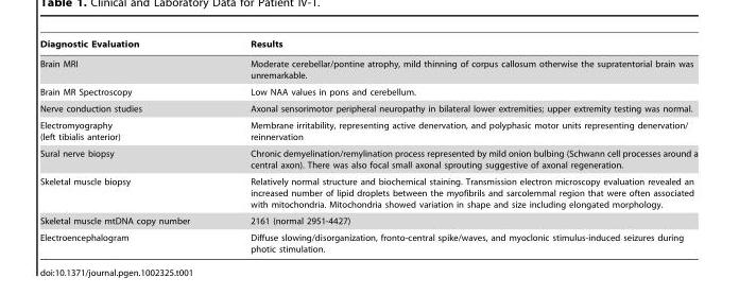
<table><thead><tr><td>Diagnostic Evaluation</td><td>Results</td></tr></thead><tbody><tr><td>Brain MRI</td><td>Moderate cerebellar/pontine atrophy, mild thinning of corpus callosum otherwise the supratentorial brain was unremarkable.</td></tr><tr><td>Brain MR Spectroscopy</td><td>Low NAA values in pons and cerebellum.</td></tr><tr><td>Nerve conduction studies</td><td>Axonal sensorimotor peripheral neuropathy in bilateral lower extremities; upper extremity testing was normal.</td></tr><tr><td>Electromyography (left tibialis anterior)</td><td>Membrane irritability, representing active denervation, and polyphasic motor units representing denervation/ reinnervation</td></tr><tr><td>Sural nerve biopsy</td><td>Chronic demyelination/remylination process represented by mild onion bulbing (Schwann cell processes around a central axon). There was also focal small axonal sprouting suggestive of axonal regeneration.</td></tr><tr><td>Skeletal muscle biopsy</td><td>Relatively normal structure and biochemical staining. Transmission electron microscopy evaluation revealed an increased number of lipid droplets between the myofibrils and sarcolemmal region that were often associated with mitochondria. Mitochondria showed variation in shape and size including elongated morphology.</td></tr><tr><td>Skeletal muscle mtDNA copy number</td><td>2161 (normal 2951-4427)</td></tr><tr><td>Electroencephalogram</td><td>Diffuse slowing/disorganization, fronto-central spike/waves, and myoclonic stimulus-induced seizures during photic stimulation.</td></tr></tbody></table>